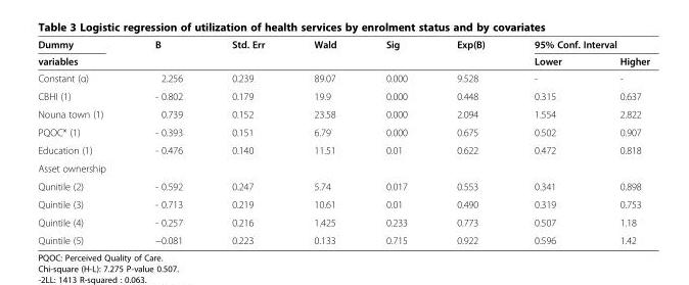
<table><thead><tr><td rowspan="2">Dummy variables</td><td rowspan="2">B</td><td rowspan="2">Std. Err</td><td rowspan="2">Wald</td><td rowspan="2">Sig</td><td rowspan="2">Exp(B)</td><td colspan="2">95% Conf. Interval</td></tr><tr><td>Lower</td><td>Higher</td></tr></thead><tbody><tr><td>Constant (α)</td><td>2.256</td><td>0.239</td><td>89.07</td><td>0.000</td><td>9.528</td><td>-</td><td>-</td></tr><tr><td>CBHI (1)</td><td>- 0.802</td><td>0.179</td><td>19.9</td><td>0.000</td><td>0.448</td><td>0.315</td><td>0.637</td></tr><tr><td>Nouna town (1)</td><td>0.739</td><td>0.152</td><td>23.58</td><td>0.000</td><td>2.094</td><td>1.554</td><td>2.822</td></tr><tr><td>PQOC* (1)</td><td>- 0.393</td><td>0.151</td><td>6.79</td><td>0.000</td><td>0.675</td><td>0.502</td><td>0.907</td></tr><tr><td>Education (1)</td><td>- 0.476</td><td>0.140</td><td>11.51</td><td>0.01</td><td>0.622</td><td>0.472</td><td>0.818</td></tr><tr><td colspan="8">Asset ownership</td></tr><tr><td>Qunitile (2)</td><td>- 0.592</td><td>0.247</td><td>5.74</td><td>0.017</td><td>0.553</td><td>0.341</td><td>0.898</td></tr><tr><td>Quintile (3)</td><td>- 0.713</td><td>0.219</td><td>10.61</td><td>0.01</td><td>0.490</td><td>0.319</td><td>0.753</td></tr><tr><td>Quintile (4)</td><td>- 0.257</td><td>0.216</td><td>1.425</td><td>0.233</td><td>0.773</td><td>0.507</td><td>1.18</td></tr><tr><td>Quintile (5)</td><td>−0.081</td><td>0.223</td><td>0.133</td><td>0.715</td><td>0.922</td><td>0.596</td><td>1.42</td></tr></tbody></table>